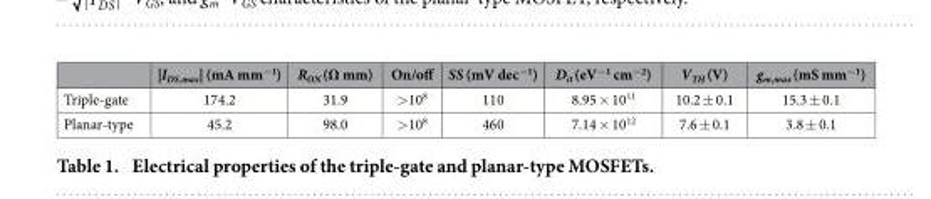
<table><thead><tr><td></td><td>|I<sub>DS,max</sub>| (mA mm<sup>−1</sup>)</td><td>R<sub>ON</sub> (Ω mm)</td><td>On/off</td><td>SS (mV dec<sup>−1</sup>)</td><td>D<sub>it</sub> (eV<sup>−1</sup> cm<sup>−2</sup>)</td><td>V<sub>TH</sub> (V)</td><td>g<sub>m,max</sub> (mS mm<sup>−1</sup>)</td></tr></thead><tbody><tr><td>Triple-gate</td><td>174.2</td><td>31.9</td><td>&gt; 10<sup>8</sup></td><td>110</td><td>8.95 × 10<sup>11</sup></td><td>10.2 ± 0.1</td><td>15.3 ± 0.1</td></tr><tr><td>Planar-type</td><td>45.2</td><td>98.0</td><td>&gt; 10<sup>8</sup></td><td>460</td><td>7.14 × 10<sup>12</sup></td><td>7.6 ± 0.1</td><td>3.8 ± 0.1</td></tr></tbody></table>